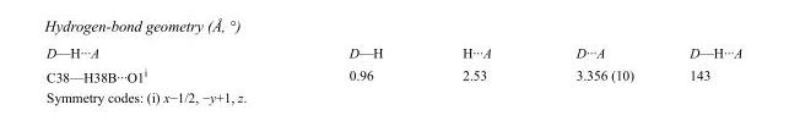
<table><tbody><tr><td>D—H···A</td><td>D—H</td><td>H···A</td><td>D···A</td><td>D—H···A</td></tr><tr><td>C38—H38B···O1<sup>i</sup></td><td>0.96</td><td>2.53</td><td>3.356 (10)</td><td>143</td></tr></tbody></table>